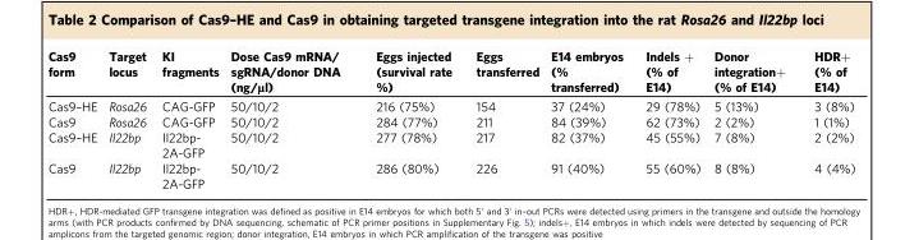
<table><thead><tr><td>Cas9 form</td><td>Target locus</td><td>KI fragments</td><td>Dose Cas9 mRNA/ sgRNA/donor DNA (ng/µl)</td><td>Eggs injected (survival rate %)</td><td>Eggs transferred</td><td>E14 embryos (% transferred)</td><td>Indels + (% of E14)</td><td>Donor integration+ (% of E14)</td><td>HDR+ (% of E14)</td></tr></thead><tbody><tr><td>Cas9–HE</td><td>Rosa26</td><td>CAG-GFP</td><td>50/10/2</td><td>216 (75%)</td><td>154</td><td>37 (24%)</td><td>29 (78%)</td><td>5 (13%)</td><td>3 (8%)</td></tr><tr><td>Cas9</td><td>Rosa26</td><td>CAG-GFP</td><td>50/10/2</td><td>284 (77%)</td><td>211</td><td>84 (39%)</td><td>62 (73%)</td><td>2 (2%)</td><td>1 (1%)</td></tr><tr><td>Cas9–HE</td><td>Il22bp</td><td>Il22bp- 2A-GFP</td><td>50/10/2</td><td>277 (78%)</td><td>217</td><td>82 (37%)</td><td>45 (55%)</td><td>7 (8%)</td><td>2 (2%)</td></tr><tr><td>Cas9</td><td>Il22bp</td><td>Il22bp- 2A-GFP</td><td>50/10/2</td><td>286 (80%)</td><td>226</td><td>91 (40%)</td><td>55 (60%)</td><td>8 (8%)</td><td>4 (4%)</td></tr></tbody></table>